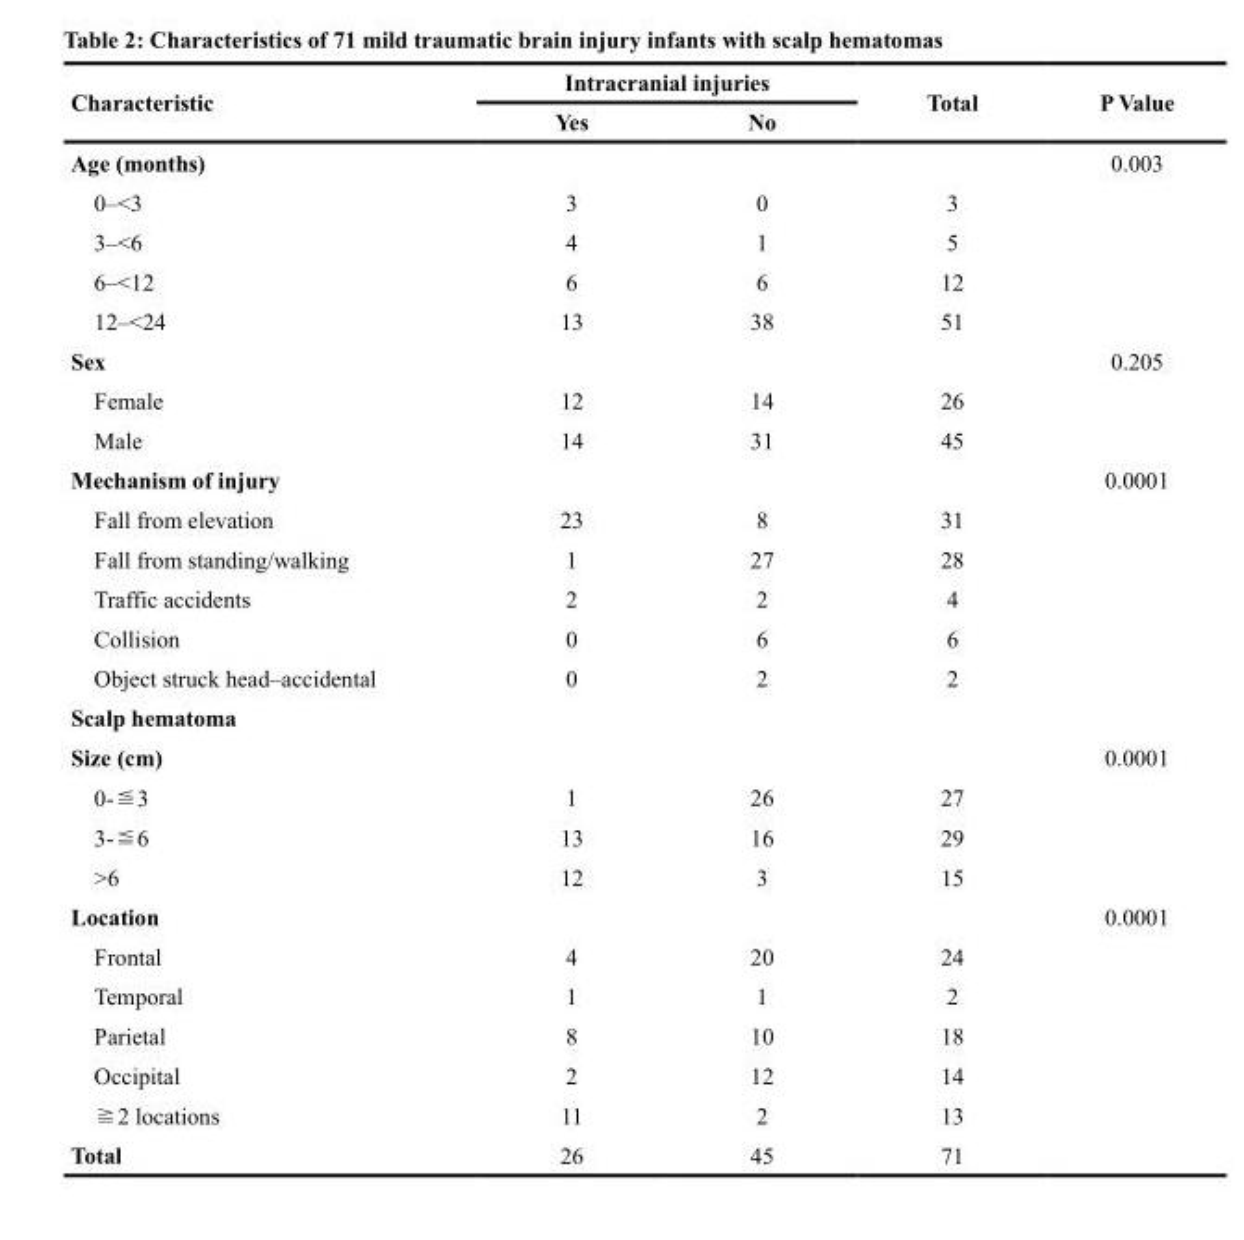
<table><thead><tr><td rowspan="2">Characteristic</td><td colspan="2">Intracranial injuries</td><td rowspan="2">Total</td><td rowspan="2">P Value</td></tr><tr><td>Yes</td><td>No</td></tr></thead><tbody><tr><td>Age (months)</td><td></td><td></td><td></td><td>0.003</td></tr><tr><td>0–&lt;3</td><td>3</td><td>0</td><td>3</td><td></td></tr><tr><td>3–&lt;6</td><td>4</td><td>1</td><td>5</td><td></td></tr><tr><td>6–&lt;12</td><td>6</td><td>6</td><td>12</td><td></td></tr><tr><td>12–&lt;24</td><td>13</td><td>38</td><td>51</td><td></td></tr><tr><td>Sex</td><td></td><td></td><td></td><td>0.205</td></tr><tr><td>Female</td><td>12</td><td>14</td><td>26</td><td></td></tr><tr><td>Male</td><td>14</td><td>31</td><td>45</td><td></td></tr><tr><td>Mechanism of injury</td><td></td><td></td><td></td><td>0.0001</td></tr><tr><td>Fall from elevation</td><td>23</td><td>8</td><td>31</td><td></td></tr><tr><td>Fall from standing/walking</td><td>1</td><td>27</td><td>28</td><td></td></tr><tr><td>Traffic accidents</td><td>2</td><td>2</td><td>4</td><td></td></tr><tr><td>Collision</td><td>0</td><td>6</td><td>6</td><td></td></tr><tr><td>Object struck head–accidental</td><td>0</td><td>2</td><td>2</td><td></td></tr><tr><td colspan="5">Scalp hematoma</td></tr><tr><td>Size (cm)</td><td></td><td></td><td></td><td>0.0001</td></tr><tr><td>0-≦3</td><td>1</td><td>26</td><td>27</td><td></td></tr><tr><td>3-≦6</td><td>13</td><td>16</td><td>29</td><td></td></tr><tr><td>&gt;6</td><td>12</td><td>3</td><td>15</td><td></td></tr><tr><td>Location</td><td></td><td></td><td></td><td>0.0001</td></tr><tr><td>Frontal</td><td>4</td><td>20</td><td>24</td><td></td></tr><tr><td>Temporal</td><td>1</td><td>1</td><td>2</td><td></td></tr><tr><td>Parietal</td><td>8</td><td>10</td><td>18</td><td></td></tr><tr><td>Occipital</td><td>2</td><td>12</td><td>14</td><td></td></tr><tr><td>≧2 locations</td><td>11</td><td>2</td><td>13</td><td></td></tr><tr><td>Total</td><td>26</td><td>45</td><td>71</td><td></td></tr></tbody></table>